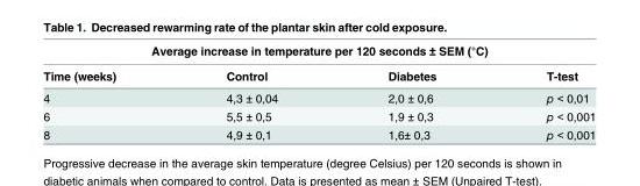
<table><thead><tr><td colspan="4">Average increase in temperature per 120 seconds ± SEM (°C)</td></tr><tr><td>Time (weeks)</td><td>Control</td><td>Diabetes</td><td>T-test</td></tr></thead><tbody><tr><td>4</td><td>4,3 ± 0,04</td><td>2,0 ± 0,6</td><td>p &lt; 0,01</td></tr><tr><td>6</td><td>5,5 ± 0,5</td><td>1,9 ± 0,3</td><td>p &lt; 0,001</td></tr><tr><td>8</td><td>4,9 ± 0,1</td><td>1,6± 0,3</td><td>p &lt; 0,001</td></tr></tbody></table>